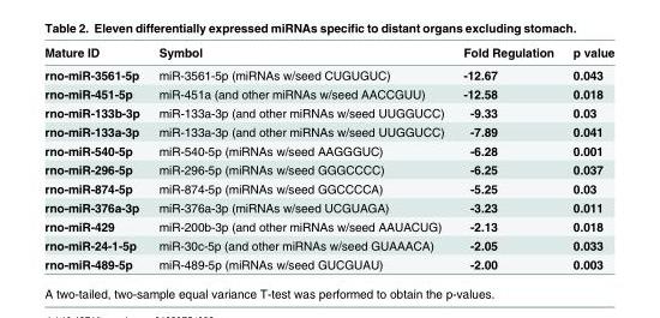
<table><thead><tr><td>Mature ID</td><td>Symbol</td><td>Fold Regulation</td><td>p value</td></tr></thead><tbody><tr><td>rno-miR-3561-5p</td><td>miR-3561-5p (miRNAs w/seed CUGUGUC)</td><td>-12.67</td><td>0.043</td></tr><tr><td>rno-miR-451-5p</td><td>miR-451a (and other miRNAs w/seed AACCGUU)</td><td>-12.58</td><td>0.018</td></tr><tr><td>rno-miR-133b-3p</td><td>miR-133a-3p (and other miRNAs w/seed UUGGUCC)</td><td>-9.33</td><td>0.03</td></tr><tr><td>rno-miR-133a-3p</td><td>miR-133a-3p (and other miRNAs w/seed UUGGUCC)</td><td>-7.89</td><td>0.041</td></tr><tr><td>rno-miR-540-5p</td><td>miR-540-5p (miRNAs w/seed AAGGGUC)</td><td>-6.28</td><td>0.001</td></tr><tr><td>rno-miR-296-5p</td><td>miR-296-5p (miRNAs w/seed GGGCCCC)</td><td>-6.25</td><td>0.037</td></tr><tr><td>rno-miR-874-5p</td><td>miR-874-5p (miRNAs w/seed GGCCCCA)</td><td>-5.25</td><td>0.03</td></tr><tr><td>rno-miR-376a-3p</td><td>miR-376a-3p (miRNAs w/seed UCGUAGA)</td><td>-3.23</td><td>0.011</td></tr><tr><td>rno-miR-429</td><td>miR-200b-3p (and other miRNAs w/seed AAUACUG)</td><td>-2.13</td><td>0.018</td></tr><tr><td>rno-miR-24-1-5p</td><td>miR-30c-5p (and other miRNAs w/seed GUAAACA)</td><td>-2.05</td><td>0.033</td></tr><tr><td>rno-miR-489-5p</td><td>miR-489-5p (miRNAs w/seed GUCGUAU)</td><td>-2.00</td><td>0.003</td></tr></tbody></table>